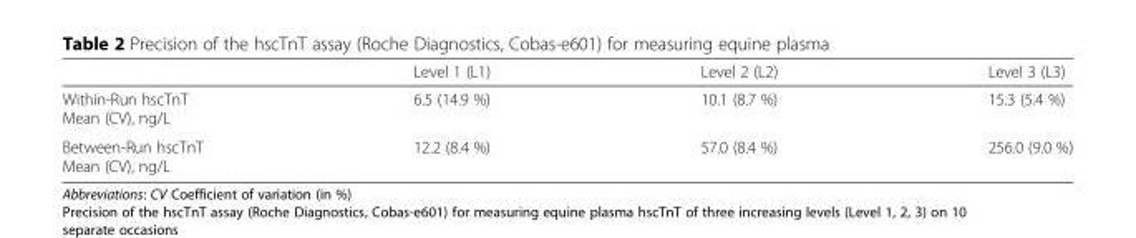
<table><thead><tr><td></td><td>Level 1 (L1)</td><td>Level 2 (L2)</td><td>Level 3 (L3)</td></tr></thead><tbody><tr><td>Within-Run hscTnT Mean (CV), ng/L</td><td>6.5 (14.9 %)</td><td>10.1 (8.7 %)</td><td>15.3 (5.4 %)</td></tr><tr><td>Between-Run hscTnT Mean (CV), ng/L</td><td>12.2 (8.4 %)</td><td>57.0 (8.4 %)</td><td>256.0 (9.0 %)</td></tr></tbody></table>